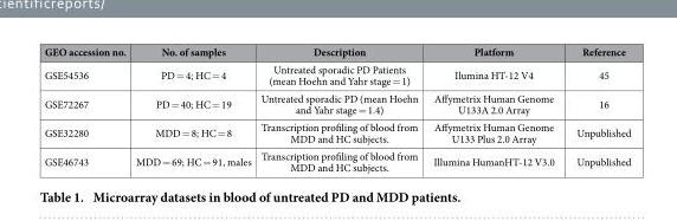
<table><thead><tr><td>GEO accession no.</td><td>No. of samples</td><td>Description</td><td>Platform</td><td>Reference</td></tr></thead><tbody><tr><td>GSE54536</td><td>PD = 4; HC = 4</td><td>Untreated sporadic PD Patients (mean Hoehn and Yahr stage = 1)</td><td>Ilumina HT-12 V4</td><td>45</td></tr><tr><td>GSE72267</td><td>PD = 40; HC = 19</td><td>Untreated sporadic PD (mean Hoehn and Yahr stage = 1.4)</td><td>Affymetrix Human Genome U133A 2.0 Array</td><td>16</td></tr><tr><td>GSE32280</td><td>MDD = 8; HC = 8</td><td>Transcription profiling of blood from MDD and HC subjects.</td><td>Affymetrix Human Genome U133 Plus 2.0 Array</td><td>Unpublished</td></tr><tr><td>GSE46743</td><td>MDD = 69; HC = 91, males</td><td>Transcription profiling of blood from MDD and HC subjects.</td><td>Illumina HumanHT-12 V3.0</td><td>Unpublished</td></tr></tbody></table>